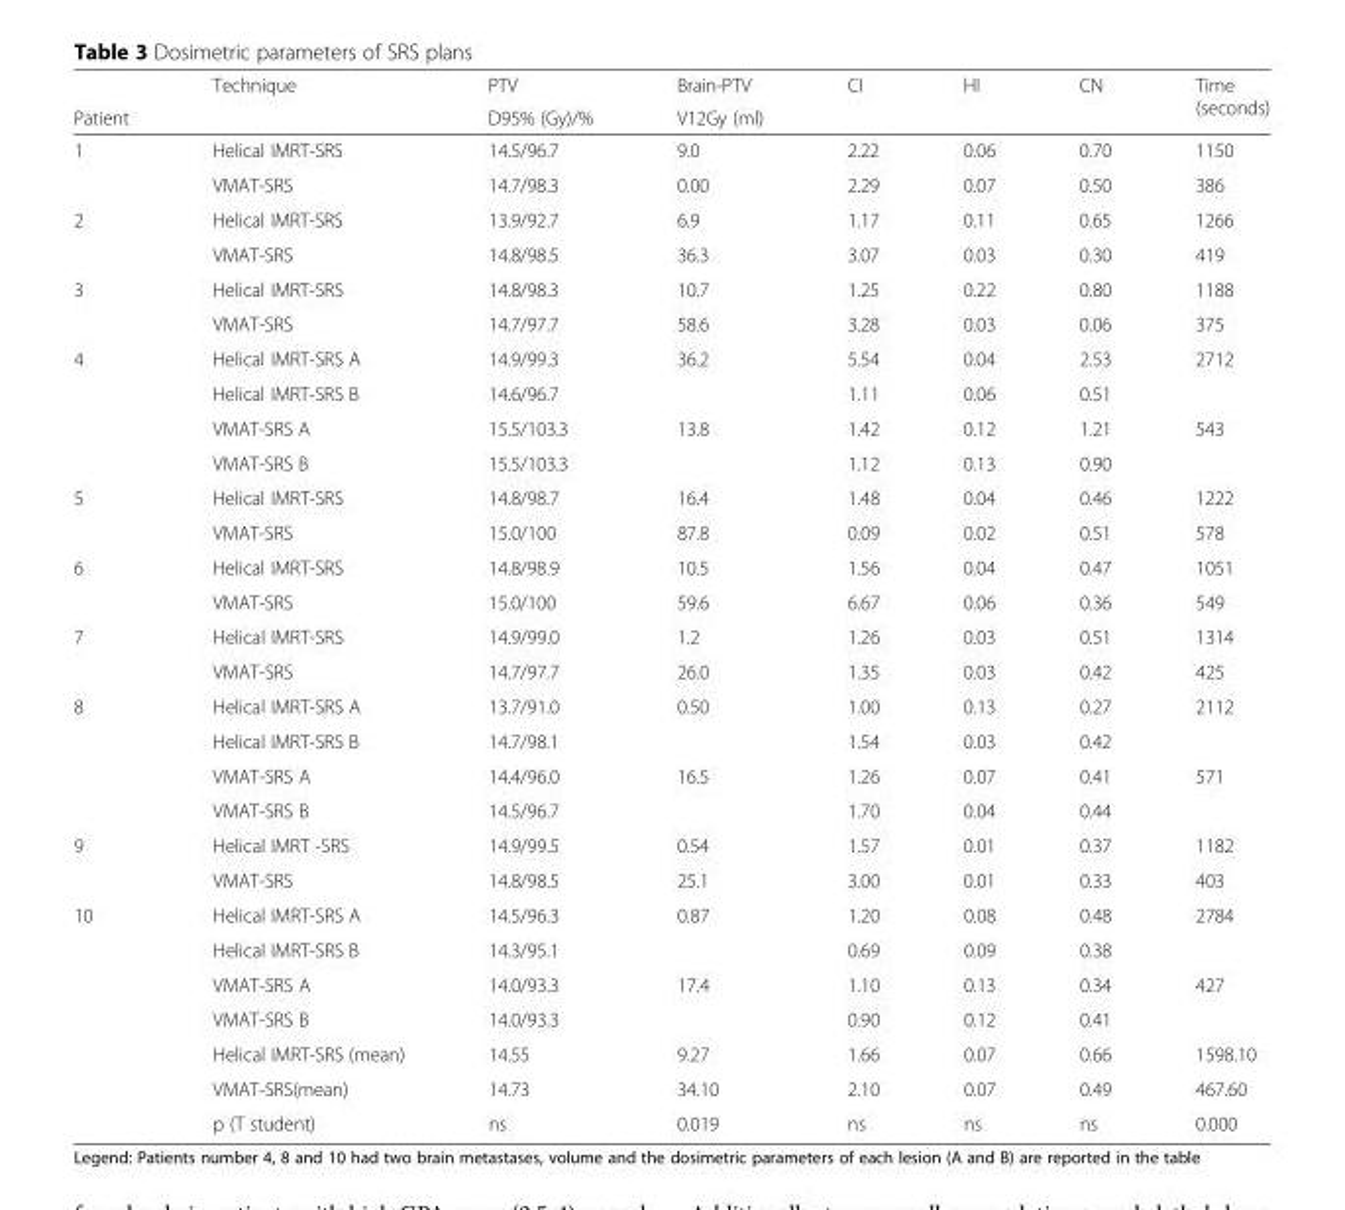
<table><thead><tr><td rowspan="2">Patient</td><td rowspan="2">Technique</td><td rowspan="2">PTV D95% (Gy)/%</td><td rowspan="2">Brain-PTV V12Gy (ml)</td><td rowspan="2">CI</td><td rowspan="2">HI</td><td rowspan="2">CN</td><td rowspan="2">Time (seconds)</td></tr><tr></tr></thead><tbody><tr><td rowspan="2">1</td><td>Helical IMRT-SRS</td><td>14.5/96.7</td><td>9.0</td><td>2.22</td><td>0.06</td><td>0.70</td><td>1150</td></tr><tr><td>VMAT-SRS</td><td>14.7/98.3</td><td>0.00</td><td>2.29</td><td>0.07</td><td>0.50</td><td>386</td></tr><tr><td rowspan="2">2</td><td>Helical IMRT-SRS</td><td>13.9/92.7</td><td>6.9</td><td>1.17</td><td>0.11</td><td>0.65</td><td>1266</td></tr><tr><td>VMAT-SRS</td><td>14.8/98.5</td><td>36.3</td><td>3.07</td><td>0.03</td><td>0.30</td><td>419</td></tr><tr><td rowspan="2">3</td><td>Helical IMRT-SRS</td><td>14.8/98.3</td><td>10.7</td><td>1.25</td><td>0.22</td><td>0.80</td><td>1188</td></tr><tr><td>VMAT-SRS</td><td>14.7/97.7</td><td>58.6</td><td>3.28</td><td>0.03</td><td>0.06</td><td>375</td></tr><tr><td rowspan="4">4</td><td>Helical IMRT-SRS A</td><td>14.9/99.3</td><td rowspan="2">36.2</td><td>5.54</td><td>0.04</td><td>2.53</td><td rowspan="2">2712</td></tr><tr><td>Helical IMRT-SRS B</td><td>14.6/96.7</td><td>1.11</td><td>0.06</td><td>0.51</td></tr><tr><td>VMAT-SRS A</td><td>15.5/103.3</td><td rowspan="2">13.8</td><td>1.42</td><td>0.12</td><td>1.21</td><td rowspan="2">543</td></tr><tr><td>VMAT-SRS B</td><td>15.5/103.3</td><td>1.12</td><td>0.13</td><td>0.90</td></tr><tr><td rowspan="2">5</td><td>Helical IMRT-SRS</td><td>14.8/98.7</td><td>16.4</td><td>1.48</td><td>0.04</td><td>0.46</td><td>1222</td></tr><tr><td>VMAT-SRS</td><td>15.0/100</td><td>87.8</td><td>0.09</td><td>0.02</td><td>0.51</td><td>578</td></tr><tr><td rowspan="2">6</td><td>Helical IMRT-SRS</td><td>14.8/98.9</td><td>10.5</td><td>1.56</td><td>0.04</td><td>0.47</td><td>1051</td></tr><tr><td>VMAT-SRS</td><td>15.0/100</td><td>59.6</td><td>6.67</td><td>0.06</td><td>0.36</td><td>549</td></tr><tr><td rowspan="2">7</td><td>Helical IMRT-SRS</td><td>14.9/99.0</td><td>1.2</td><td>1.26</td><td>0.03</td><td>0.51</td><td>1314</td></tr><tr><td>VMAT-SRS</td><td>14.7/97.7</td><td>26.0</td><td>1.35</td><td>0.03</td><td>0.42</td><td>425</td></tr><tr><td rowspan="4">8</td><td>Helical IMRT-SRS A</td><td>13.7/91.0</td><td rowspan="2">0.50</td><td>1.00</td><td>0.13</td><td>0.27</td><td rowspan="2">2112</td></tr><tr><td>Helical IMRT-SRS B</td><td>14.7/98.1</td><td>1.54</td><td>0.03</td><td>0.42</td></tr><tr><td>VMAT-SRS A</td><td>14.4/96.0</td><td rowspan="2">16.5</td><td>1.26</td><td>0.07</td><td>0.41</td><td rowspan="2">571</td></tr><tr><td>VMAT-SRS B</td><td>14.5/96.7</td><td>1.70</td><td>0.04</td><td>0.44</td></tr><tr><td rowspan="2">9</td><td>Helical IMRT -SRS</td><td>14.9/99.5</td><td>0.54</td><td>1.57</td><td>0.01</td><td>0.37</td><td>1182</td></tr><tr><td>VMAT-SRS</td><td>14.8/98.5</td><td>25.1</td><td>3.00</td><td>0.01</td><td>0.33</td><td>403</td></tr><tr><td rowspan="7">10</td><td>Helical IMRT-SRS A</td><td>14.5/96.3</td><td rowspan="2">0.87</td><td>1.20</td><td>0.08</td><td>0.48</td><td rowspan="2">2784</td></tr><tr><td>Helical IMRT-SRS B</td><td>14.3/95.1</td><td>0.69</td><td>0.09</td><td>0.38</td></tr><tr><td>VMAT-SRS A</td><td>14.0/93.3</td><td rowspan="2">17.4</td><td>1.10</td><td>0.13</td><td>0.34</td><td rowspan="2">427</td></tr><tr><td>VMAT-SRS B</td><td>14.0/93.3</td><td>0.90</td><td>0.12</td><td>0.41</td></tr><tr><td>Helical IMRT-SRS (mean)</td><td>14.55</td><td>9.27</td><td>1.66</td><td>0.07</td><td>0.66</td><td>1598.10</td></tr><tr><td>VMAT-SRS(mean)</td><td>14.73</td><td>34.10</td><td>2.10</td><td>0.07</td><td>0.49</td><td>467.60</td></tr><tr><td>p (T student)</td><td>ns</td><td>0.019</td><td>ns</td><td>ns</td><td>ns</td><td>0.000</td></tr></tbody></table>